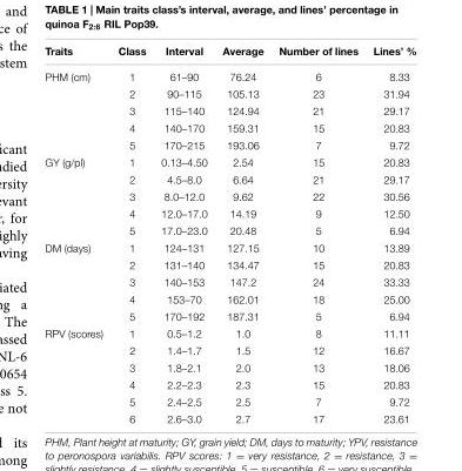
<table><thead><tr><td>Traits</td><td>Class</td><td>Interval</td><td>Average</td><td>Number of lines</td><td>Lines’ %</td></tr></thead><tbody><tr><td rowspan="5">PHM (cm)</td><td>1</td><td>61–90</td><td>76.24</td><td>6</td><td>8.33</td></tr><tr><td>2</td><td>90–115</td><td>105.13</td><td>23</td><td>31.94</td></tr><tr><td>3</td><td>115–140</td><td>124.94</td><td>21</td><td>29.17</td></tr><tr><td>4</td><td>140–170</td><td>159.31</td><td>15</td><td>20.83</td></tr><tr><td>5</td><td>170–215</td><td>193.06</td><td>7</td><td>9.72</td></tr><tr><td rowspan="5">GY (g/pl)</td><td>1</td><td>0.13–4.50</td><td>2.54</td><td>15</td><td>20.83</td></tr><tr><td>2</td><td>4.5–8.0</td><td>6.64</td><td>21</td><td>29.17</td></tr><tr><td>3</td><td>8.0–12.0</td><td>9.62</td><td>22</td><td>30.56</td></tr><tr><td>4</td><td>12.0–17.0</td><td>14.19</td><td>9</td><td>12.50</td></tr><tr><td>5</td><td>17.0–23.0</td><td>20.48</td><td>5</td><td>6.94</td></tr><tr><td rowspan="5">DM (days)</td><td>1</td><td>124–131</td><td>127.15</td><td>10</td><td>13.89</td></tr><tr><td>2</td><td>131–140</td><td>134.47</td><td>15</td><td>20.83</td></tr><tr><td>3</td><td>140–153</td><td>147.2</td><td>24</td><td>33.33</td></tr><tr><td>4</td><td>153–70</td><td>162.01</td><td>18</td><td>25.00</td></tr><tr><td>5</td><td>170–192</td><td>187.31</td><td>5</td><td>6.94</td></tr><tr><td rowspan="6">RPV (scores)</td><td>1</td><td>0.5–1.2</td><td>1.0</td><td>8</td><td>11.11</td></tr><tr><td>2</td><td>1.4–1.7</td><td>1.5</td><td>12</td><td>16.67</td></tr><tr><td>3</td><td>1.8–2.1</td><td>2.0</td><td>13</td><td>18.06</td></tr><tr><td>4</td><td>2.2–2.3</td><td>2.3</td><td>15</td><td>20.83</td></tr><tr><td>5</td><td>2.4–2.5</td><td>2.5</td><td>7</td><td>9.72</td></tr><tr><td>6</td><td>2.6–3.0</td><td>2.7</td><td>17</td><td>23.61</td></tr></tbody></table>